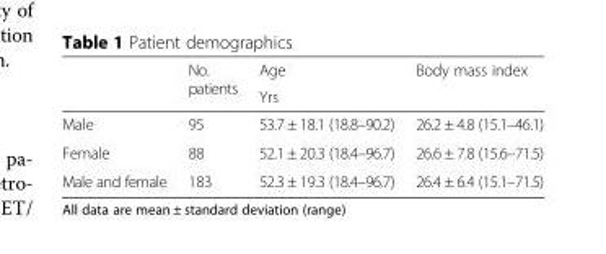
<table><thead><tr><td rowspan="2"></td><td rowspan="2">No. patients</td><td rowspan="2">Age Yrs</td><td rowspan="2">Body mass index</td></tr><tr></tr></thead><tbody><tr><td>Male</td><td>95</td><td>53.7 ± 18.1 (18.8–90.2)</td><td>26.2 ± 4.8 (15.1–46.1)</td></tr><tr><td>Female</td><td>88</td><td>52.1 ± 20.3 (18.4–96.7)</td><td>26.6 ± 7.8 (15.6–71.5)</td></tr><tr><td>Male and female</td><td>183</td><td>52.3 ± 19.3 (18.4–96.7)</td><td>26.4 ± 6.4 (15.1–71.5)</td></tr></tbody></table>